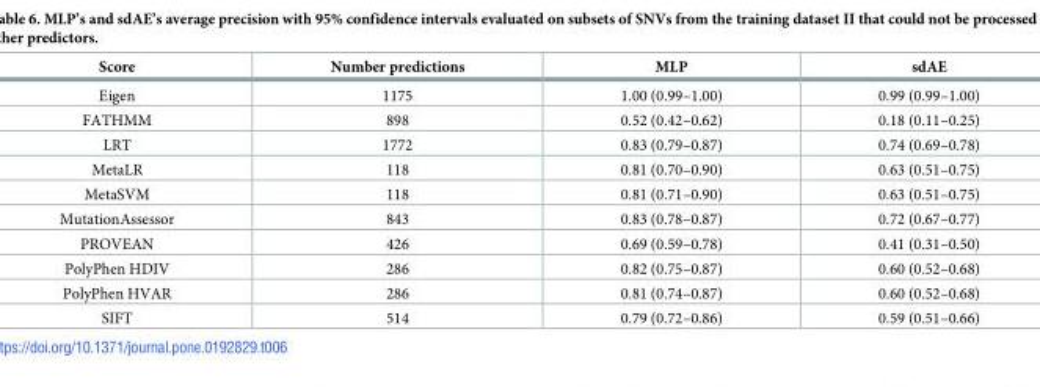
<table><thead><tr><td>Score</td><td>Number predictions</td><td>MLP</td><td>sdAE</td></tr></thead><tbody><tr><td>Eigen</td><td>1175</td><td>1.00 (0.99–1.00)</td><td>0.99 (0.99–1.00)</td></tr><tr><td>FATHMM</td><td>898</td><td>0.52 (0.42–0.62)</td><td>0.18 (0.11–0.25)</td></tr><tr><td>LRT</td><td>1772</td><td>0.83 (0.79–0.87)</td><td>0.74 (0.69–0.78)</td></tr><tr><td>MetaLR</td><td>118</td><td>0.81 (0.70–0.90)</td><td>0.63 (0.51–0.75)</td></tr><tr><td>MetaSVM</td><td>118</td><td>0.81 (0.71–0.90)</td><td>0.63 (0.51–0.75)</td></tr><tr><td>MutationAssessor</td><td>843</td><td>0.83 (0.78–0.87)</td><td>0.72 (0.67–0.77)</td></tr><tr><td>PROVEAN</td><td>426</td><td>0.69 (0.59–0.78)</td><td>0.41 (0.31–0.50)</td></tr><tr><td>PolyPhen HDIV</td><td>286</td><td>0.82 (0.75–0.87)</td><td>0.60 (0.52–0.68)</td></tr><tr><td>PolyPhen HVAR</td><td>286</td><td>0.81 (0.74–0.87)</td><td>0.60 (0.52–0.68)</td></tr><tr><td>SIFT</td><td>514</td><td>0.79 (0.72–0.86)</td><td>0.59 (0.51–0.66)</td></tr></tbody></table>